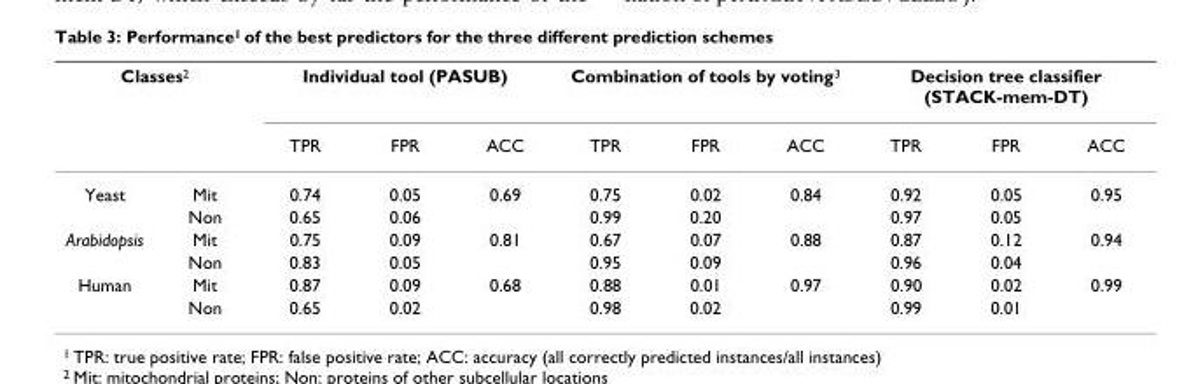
<table><thead><tr><td colspan="2">Classes<sup>2</sup></td><td colspan="3">Individual tool (PASUB)</td><td colspan="3">Combination of tools by voting<sup>3</sup></td><td colspan="3">Decision tree classifier (STACK-mem-DT)</td></tr><tr><td></td><td></td><td>TPR</td><td>FPR</td><td>ACC</td><td>TPR</td><td>FPR</td><td>ACC</td><td>TPR</td><td>FPR</td><td>ACC</td></tr></thead><tbody><tr><td rowspan="2">Yeast</td><td>Mit</td><td>0.74</td><td>0.05</td><td>0.69</td><td>0.75</td><td>0.02</td><td>0.84</td><td>0.92</td><td>0.05</td><td>0.95</td></tr><tr><td>Non</td><td>0.65</td><td>0.06</td><td></td><td>0.99</td><td>0.20</td><td></td><td>0.97</td><td>0.05</td><td></td></tr><tr><td rowspan="2">Arabidopsis</td><td>Mit</td><td>0.75</td><td>0.09</td><td>0.81</td><td>0.67</td><td>0.07</td><td>0.88</td><td>0.87</td><td>0.12</td><td>0.94</td></tr><tr><td>Non</td><td>0.83</td><td>0.05</td><td></td><td>0.95</td><td>0.09</td><td></td><td>0.96</td><td>0.04</td><td></td></tr><tr><td rowspan="2">Human</td><td>Mit</td><td>0.87</td><td>0.09</td><td>0.68</td><td>0.88</td><td>0.01</td><td>0.97</td><td>0.90</td><td>0.02</td><td>0.99</td></tr><tr><td>Non</td><td>0.65</td><td>0.02</td><td></td><td>0.98</td><td>0.02</td><td></td><td>0.99</td><td>0.01</td><td></td></tr></tbody></table>